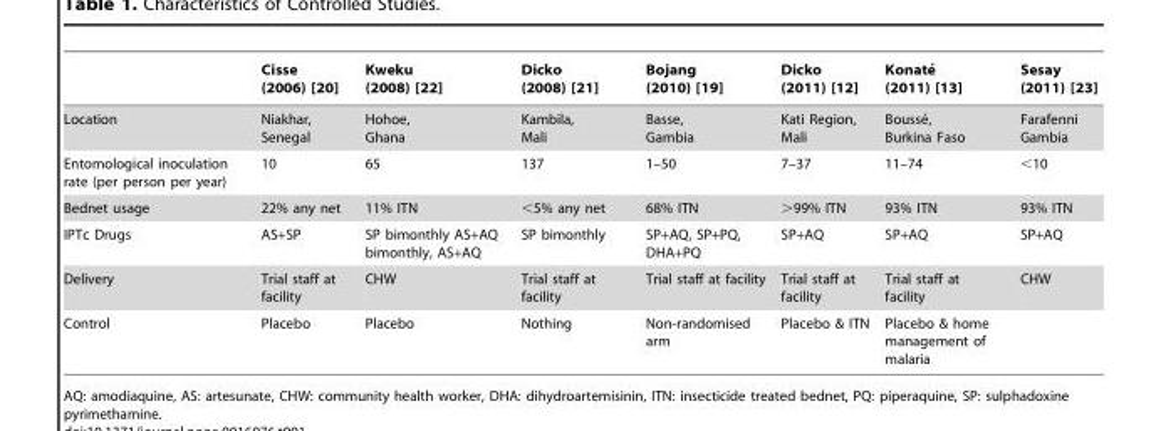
<table><thead><tr><td></td><td>Cisse (2006) [20]</td><td>Kweku (2008) [22]</td><td>Dicko (2008) [21]</td><td>Bojang (2010) [19]</td><td>Dicko (2011) [12]</td><td>Konate´ (2011) [13]</td><td>Sesay (2011) [23]</td></tr></thead><tbody><tr><td>Location</td><td>Niakhar, Senegal</td><td>Hohoe, Ghana</td><td>Kambila, Mali</td><td>Basse, Gambia</td><td>Kati Region, Mali</td><td>Bousse´, Burkina Faso</td><td>Farafenni Gambia</td></tr><tr><td>Entomological inoculation rate (per person per year)</td><td>10</td><td>65</td><td>137</td><td>1–50</td><td>7–37</td><td>11–74</td><td>&lt;10</td></tr><tr><td>Bednet usage</td><td>22% any net</td><td>11% ITN</td><td>&lt;5% any net</td><td>68% ITN</td><td>&gt;99% ITN</td><td>93% ITN</td><td>93% ITN</td></tr><tr><td>IPTc Drugs</td><td>AS+SP</td><td>SP bimonthly AS+AQ bimonthly, AS+AQ</td><td>SP bimonthly</td><td>SP+AQ, SP+PQ, DHA+PQ</td><td>SP+AQ</td><td>SP+AQ</td><td>SP+AQ</td></tr><tr><td>Delivery</td><td>Trial staff at facility</td><td>CHW</td><td>Trial staff at facility</td><td>Trial staff at facility</td><td>Trial staff at facility</td><td>Trial staff at facility</td><td>CHW</td></tr><tr><td>Control</td><td>Placebo</td><td>Placebo</td><td>Nothing</td><td>Non-randomised arm</td><td>Placebo &amp; ITN</td><td>Placebo &amp; home management of malaria</td><td></td></tr></tbody></table>